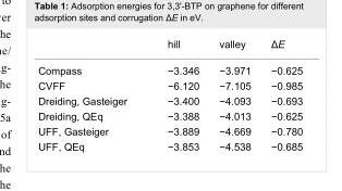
<table><thead><tr><td></td><td>hill</td><td>valley</td><td>ΔE</td></tr></thead><tbody><tr><td>Compass</td><td>−3.346</td><td>−3.971</td><td>−0.625</td></tr><tr><td>CVFF</td><td>−6.120</td><td>−7.105</td><td>−0.985</td></tr><tr><td>Dreiding, Gasteiger</td><td>−3.400</td><td>−4.093</td><td>−0.693</td></tr><tr><td>Dreiding, QEq</td><td>−3.388</td><td>−4.013</td><td>−0.625</td></tr><tr><td>UFF, Gasteiger</td><td>−3.889</td><td>−4.669</td><td>−0.780</td></tr><tr><td>UFF, QEq</td><td>−3.853</td><td>−4.538</td><td>−0.685</td></tr></tbody></table>